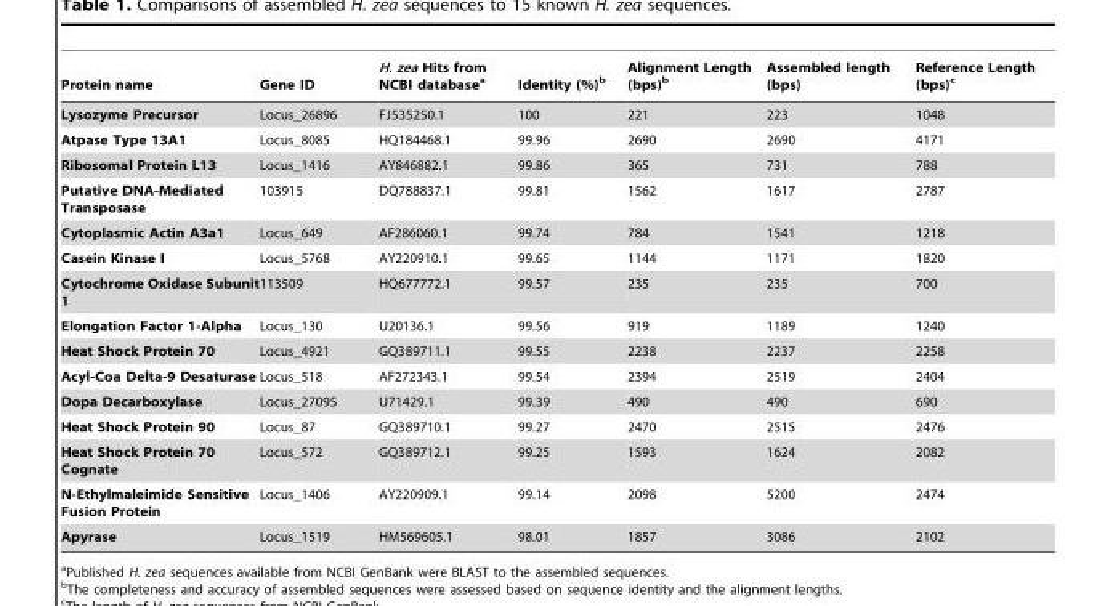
<table><thead><tr><td>Protein name</td><td>Gene ID</td><td>H. zea Hits from NCBI database<sup>a</sup></td><td>Identity (%)<sup>b</sup></td><td>Alignment Length (bps)<sup>b</sup></td><td>Assembled length (bps)</td><td>Reference Length (bps)<sup>c</sup></td></tr></thead><tbody><tr><td>Lysozyme Precursor</td><td>Locus_26896</td><td>FJ535250.1</td><td>100</td><td>221</td><td>223</td><td>1048</td></tr><tr><td>Atpase Type 13A1</td><td>Locus_8085</td><td>HQ184468.1</td><td>99.96</td><td>2690</td><td>2690</td><td>4171</td></tr><tr><td>Ribosomal Protein L13</td><td>Locus_1416</td><td>AY846882.1</td><td>99.86</td><td>365</td><td>731</td><td>788</td></tr><tr><td>Putative DNA-Mediated Transposase</td><td>103915</td><td>DQ788837.1</td><td>99.81</td><td>1562</td><td>1617</td><td>2787</td></tr><tr><td>Cytoplasmic Actin A3a1</td><td>Locus_649</td><td>AF286060.1</td><td>99.74</td><td>784</td><td>1541</td><td>1218</td></tr><tr><td>Casein Kinase I</td><td>Locus_5768</td><td>AY220910.1</td><td>99.65</td><td>1144</td><td>1171</td><td>1820</td></tr><tr><td>Cytochrome Oxidase Subunit 1</td><td>113509</td><td>HQ677772.1</td><td>99.57</td><td>235</td><td>235</td><td>700</td></tr><tr><td>Elongation Factor 1-Alpha</td><td>Locus_130</td><td>U20136.1</td><td>99.56</td><td>919</td><td>1189</td><td>1240</td></tr><tr><td>Heat Shock Protein 70</td><td>Locus_4921</td><td>GQ389711.1</td><td>99.55</td><td>2238</td><td>2237</td><td>2258</td></tr><tr><td>Acyl-Coa Delta-9 Desaturase</td><td>Locus_518</td><td>AF272343.1</td><td>99.54</td><td>2394</td><td>2519</td><td>2404</td></tr><tr><td>Dopa Decarboxylase</td><td>Locus_27095</td><td>U71429.1</td><td>99.39</td><td>490</td><td>490</td><td>690</td></tr><tr><td>Heat Shock Protein 90</td><td>Locus_87</td><td>GQ389710.1</td><td>99.27</td><td>2470</td><td>2515</td><td>2476</td></tr><tr><td>Heat Shock Protein 70 Cognate</td><td>Locus_572</td><td>GQ389712.1</td><td>99.25</td><td>1593</td><td>1624</td><td>2082</td></tr><tr><td>N-Ethylmaleimide Sensitive Fusion Protein</td><td>Locus_1406</td><td>AY220909.1</td><td>99.14</td><td>2098</td><td>5200</td><td>2474</td></tr><tr><td>Apyrase</td><td>Locus_1519</td><td>HM569605.1</td><td>98.01</td><td>1857</td><td>3086</td><td>2102</td></tr></tbody></table>